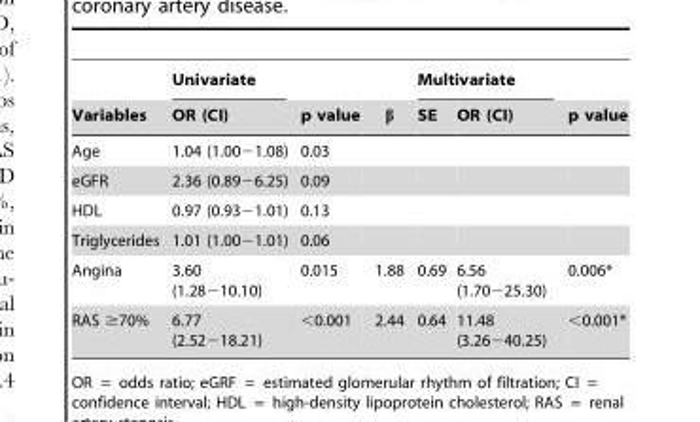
<table><thead><tr><td rowspan="2">Variables</td><td rowspan="2">Univariate OR (CI)</td><td rowspan="2">p value</td><td rowspan="2">β</td><td colspan="2">Multivariate</td><td rowspan="2">p value</td></tr><tr><td>SE</td><td>OR (CI)</td></tr></thead><tbody><tr><td>Age</td><td>1.04 (1.00−1.08)</td><td>0.03</td><td></td><td></td><td></td><td></td></tr><tr><td>eGFR</td><td>2.36 (0.89−6.25)</td><td>0.09</td><td></td><td></td><td></td><td></td></tr><tr><td>HDL</td><td>0.97 (0.93−1.01)</td><td>0.13</td><td></td><td></td><td></td><td></td></tr><tr><td>Triglycerides</td><td>1.01 (1.00−1.01)</td><td>0.06</td><td></td><td></td><td></td><td></td></tr><tr><td>Angina</td><td>3.60 (1.28−10.10)</td><td>0.015</td><td>1.88</td><td>0.69</td><td>6.56 (1.70−25.30)</td><td>0.006*</td></tr><tr><td>RAS ≥70%</td><td>6.77 (2.52−18.21)</td><td>&lt;0.001</td><td>2.44</td><td>0.64</td><td>11.48 (3.26−40.25)</td><td>&lt;0.001*</td></tr></tbody></table>